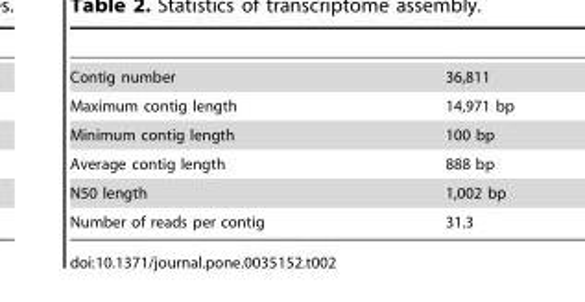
<table><tbody><tr><td>Contig number</td><td>36,811</td></tr><tr><td>Maximum contig length</td><td>14,971 bp</td></tr><tr><td>Minimum contig length</td><td>100 bp</td></tr><tr><td>Average contig length</td><td>888 bp</td></tr><tr><td>N50 length</td><td>1,002 bp</td></tr><tr><td>Number of reads per contig</td><td>31.3</td></tr></tbody></table>